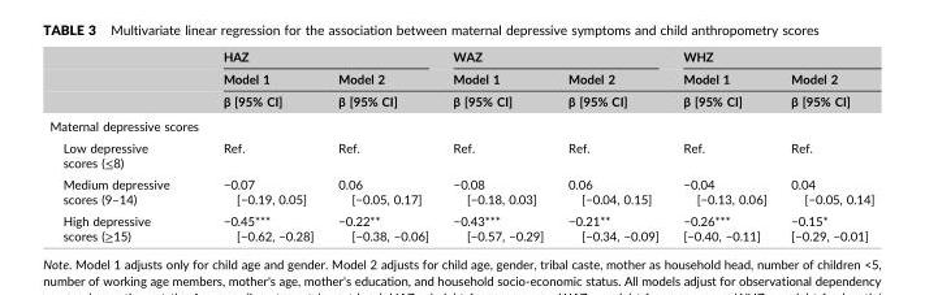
<table><thead><tr><td rowspan="3"></td><td colspan="2">HAZ</td><td colspan="2">WAZ</td><td colspan="2">WHZ</td></tr><tr><td rowspan="2">Model 1 β [95% CI]</td><td rowspan="2">Model 2 β [95% CI]</td><td rowspan="2">Model 1 β [95% CI]</td><td rowspan="2">Model 2 β [95% CI]</td><td rowspan="2">Model 1 β [95% CI]</td><td rowspan="2">Model 2 β [95% CI]</td></tr><tr></tr></thead><tbody><tr><td colspan="7">Maternal depressive scores</td></tr><tr><td>Low depressive scores (≤8)</td><td>Ref.</td><td>Ref.</td><td>Ref.</td><td>Ref.</td><td>Ref.</td><td>Ref.</td></tr><tr><td>Medium depressive scores (9–14)</td><td>−0.07 [−0.19, 0.05]</td><td>0.06 [−0.05, 0.17]</td><td>−0.08 [−0.18, 0.03]</td><td>0.06 [−0.04, 0.15]</td><td>−0.04 [−0.13, 0.06]</td><td>0.04 [−0.05, 0.14]</td></tr><tr><td rowspan="2">High depressive scores (≥15)</td><td rowspan="2">−0.45*** [−0.62, −0.28]</td><td rowspan="2">−0.22** [−0.38, −0.06]</td><td rowspan="2">−0.43*** [−0.57, −0.29]</td><td rowspan="2">−0.21** [−0.34, −0.09]</td><td>−0.26***</td><td>−0.15*</td></tr><tr><td>[−0.40, −0.11]</td><td>[−0.29, −0.01]</td></tr></tbody></table>